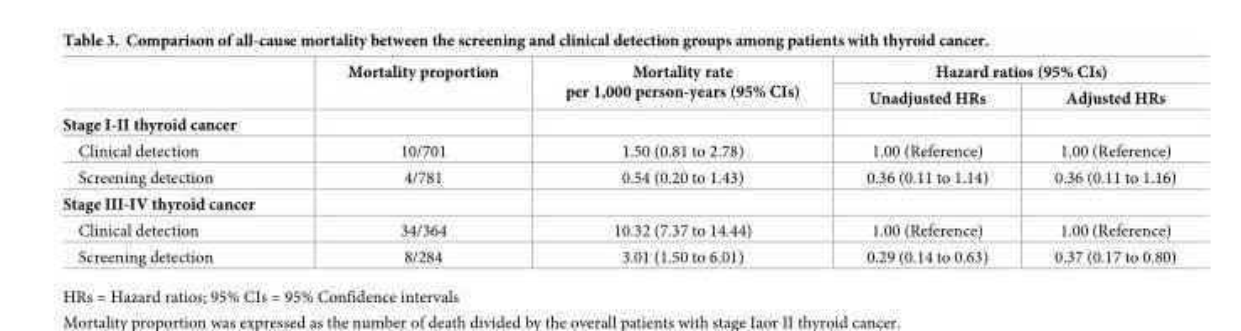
<table><thead><tr><td rowspan="2"></td><td rowspan="2">Mortality proportion</td><td rowspan="2">Mortality rate per 1,000 person-years (95% CIs)</td><td colspan="2">Hazard ratios (95% CIs)</td></tr><tr><td>Unadjusted HRs</td><td>Adjusted HRs</td></tr></thead><tbody><tr><td colspan="5">Stage I-II thyroid cancer</td></tr><tr><td>Clinical detection</td><td>10/701</td><td>1.50 (0.81 to 2.78)</td><td>1.00 (Reference)</td><td>1.00 (Reference)</td></tr><tr><td>Screening detection</td><td>4/781</td><td>0.54 (0.20 to 1.43)</td><td>0.36 (0.11 to 1.14)</td><td>0.36 (0.11 to 1.16)</td></tr><tr><td colspan="5">Stage III-IV thyroid cancer</td></tr><tr><td>Clinical detection</td><td>34/364</td><td>10.32 (7.37 to 14.44)</td><td>1.00 (Reference)</td><td>1.00 (Reference)</td></tr><tr><td>Screening detection</td><td>8/284</td><td>3.01 (1.50 to 6.01)</td><td>0.29 (0.14 to 0.63)</td><td>0.37 (0.17 to 0.80)</td></tr></tbody></table>